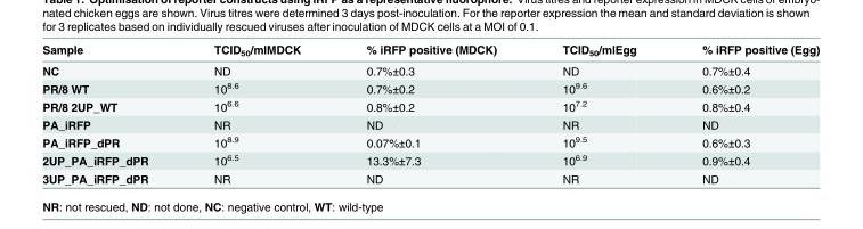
<table><thead><tr><td>Sample</td><td>TCID<sub>50</sub>/mlMDCK</td><td>% iRFP positive (MDCK)</td><td>TCID<sub>50</sub>/mlEgg</td><td>% iRFP positive (Egg)</td></tr></thead><tbody><tr><td>NC</td><td>ND</td><td>0.7%±0.3</td><td>ND</td><td>0.7%±0.4</td></tr><tr><td>PR/8 WT</td><td>10<sup>8.6</sup></td><td>0.7%±0.2</td><td>10<sup>9.6</sup></td><td>0.6%±0.2</td></tr><tr><td>PR/8 2UP_WT</td><td>10<sup>6.6</sup></td><td>0.8%±0.2</td><td>10<sup>7.2</sup></td><td>0.8%±0.4</td></tr><tr><td>PA_iRFP</td><td>NR</td><td>ND</td><td>NR</td><td>ND</td></tr><tr><td>PA_iRFP_dPR</td><td>10<sup>8.9</sup></td><td>0.07%±0.1</td><td>10<sup>9.5</sup></td><td>0.6%±0.3</td></tr><tr><td>2UP_PA_iRFP_dPR</td><td>10<sup>6.5</sup></td><td>13.3%±7.3</td><td>10<sup>6.9</sup></td><td>0.9%±0.4</td></tr><tr><td>3UP_PA_iRFP_dPR</td><td>NR</td><td>ND</td><td>NR</td><td>ND</td></tr></tbody></table>